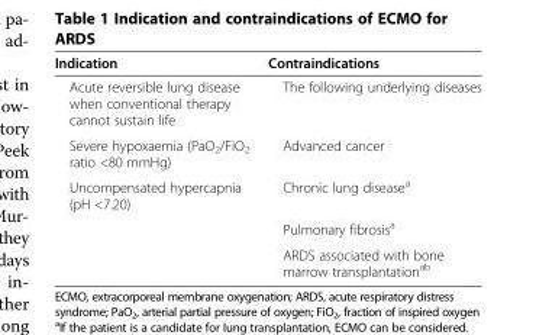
<table><thead><tr><td>Indication</td><td>Contraindications</td></tr></thead><tbody><tr><td>Acute reversible lung disease when conventional therapy cannot sustain life</td><td>The following underlying diseases</td></tr><tr><td>Severe hypoxaemia (PaO<sub>2</sub>/FiO<sub>2</sub> ratio &lt;80 mmHg)</td><td>Advanced cancer</td></tr><tr><td rowspan="3">Uncompensated hypercapnia (pH &lt;7.20)</td><td>Chronic lung disease<sup>a</sup></td></tr><tr><td>Pulmonary fibrosis<sup>a</sup></td></tr><tr><td>ARDS associated with bone marrow transplantation<sup>ab</sup></td></tr></tbody></table>